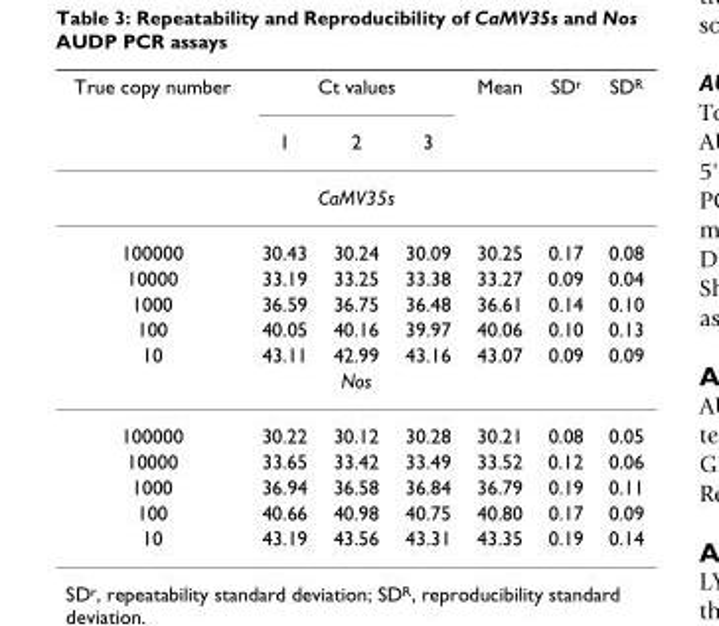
<table><thead><tr><td rowspan="2">True copy number</td><td colspan="3">Ct values</td><td rowspan="2">Mean</td><td rowspan="2">SD<sup>r</sup></td><td rowspan="2">SD<sup>R</sup></td></tr><tr><td>1</td><td>2</td><td>3</td></tr></thead><tbody><tr><td colspan="7">CaMV35s</td></tr><tr><td>100000</td><td>30.43</td><td>30.24</td><td>30.09</td><td>30.25</td><td>0.17</td><td>0.08</td></tr><tr><td>10000</td><td>33.19</td><td>33.25</td><td>33.38</td><td>33.27</td><td>0.09</td><td>0.04</td></tr><tr><td>1000</td><td>36.59</td><td>36.75</td><td>36.48</td><td>36.61</td><td>0.14</td><td>0.10</td></tr><tr><td>100</td><td>40.05</td><td>40.16</td><td>39.97</td><td>40.06</td><td>0.10</td><td>0.13</td></tr><tr><td>10</td><td>43.11</td><td>42.99</td><td>43.16</td><td>43.07</td><td>0.09</td><td>0.09</td></tr><tr><td colspan="7">Nos</td></tr><tr><td>100000</td><td>30.22</td><td>30.12</td><td>30.28</td><td>30.21</td><td>0.08</td><td>0.05</td></tr><tr><td>10000</td><td>33.65</td><td>33.42</td><td>33.49</td><td>33.52</td><td>0.12</td><td>0.06</td></tr><tr><td>1000</td><td>36.94</td><td>36.58</td><td>36.84</td><td>36.79</td><td>0.19</td><td>0.11</td></tr><tr><td>100</td><td>40.66</td><td>40.98</td><td>40.75</td><td>40.80</td><td>0.17</td><td>0.09</td></tr><tr><td>10</td><td>43.19</td><td>43.56</td><td>43.31</td><td>43.35</td><td>0.19</td><td>0.14</td></tr></tbody></table>